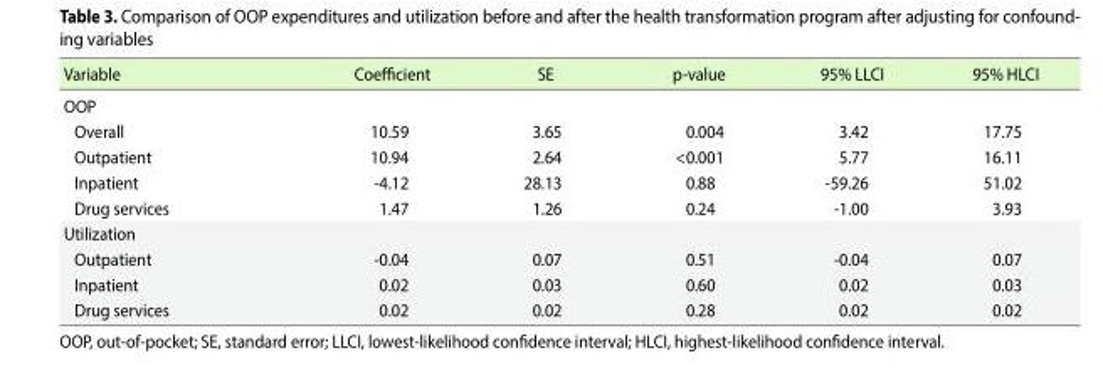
<table><thead><tr><td>Variable</td><td>Coefficient</td><td>SE</td><td>p-value</td><td>95% LLCI</td><td>95% HLCI</td></tr></thead><tbody><tr><td colspan="6">OOP</td></tr><tr><td>Overall</td><td>10.59</td><td>3.65</td><td>0.004</td><td>3.42</td><td>17.75</td></tr><tr><td>Outpatient</td><td>10.94</td><td>2.64</td><td>&lt;0.001</td><td>5.77</td><td>16.11</td></tr><tr><td>Inpatient</td><td>-4.12</td><td>28.13</td><td>0.88</td><td>-59.26</td><td>51.02</td></tr><tr><td>Drug services</td><td>1.47</td><td>1.26</td><td>0.24</td><td>-1.00</td><td>3.93</td></tr><tr><td colspan="6">Utilization</td></tr><tr><td>Outpatient</td><td>-0.04</td><td>0.07</td><td>0.51</td><td>-0.04</td><td>0.07</td></tr><tr><td>Inpatient</td><td>0.02</td><td>0.03</td><td>0.60</td><td>0.02</td><td>0.03</td></tr><tr><td>Drug services</td><td>0.02</td><td>0.02</td><td>0.28</td><td>0.02</td><td>0.02</td></tr></tbody></table>